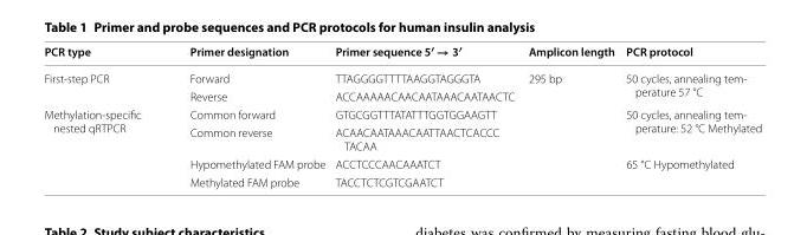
<table><thead><tr><td>PCR type</td><td>Primer designation</td><td>Primer sequence 5′ → 3′</td><td>Amplicon length</td><td>PCR protocol</td></tr></thead><tbody><tr><td rowspan="2">First-step PCR</td><td>Forward</td><td>TTAGGGGTTTTAAGGTAGGGTA</td><td rowspan="2">295 bp</td><td rowspan="2">50 cycles, annealing tem- perature 57 °C</td></tr><tr><td>Reverse</td><td>ACCAAAAACAACAATAAACAATAACTC</td></tr><tr><td rowspan="4">Methylation-specific nested qRTPCR</td><td>Common forward</td><td>GTGCGGTTTATATTTGGTGGAAGTT</td><td rowspan="2"></td><td rowspan="2">50 cycles, annealing tem- perature: 52 °C Methylated</td></tr><tr><td>Common reverse</td><td>ACAACAATAAACAATTAACTCACCC TACAA</td></tr><tr><td>Hypomethylated FAM probe</td><td>ACCTCCCAACAAATCT</td><td rowspan="2"></td><td rowspan="2">65 °C Hypomethylated</td></tr><tr><td>Methylated FAM probe</td><td>TACCTCTCGTCGAATCT</td></tr></tbody></table>